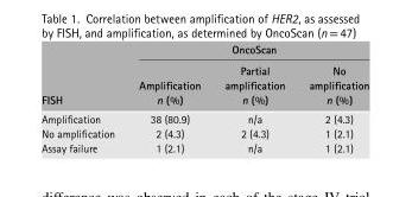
<table><thead><tr><td rowspan="3">FISH</td><td colspan="3">OncoScan</td></tr><tr><td rowspan="2">Amplification n (%)</td><td rowspan="2">Partial amplification n (%)</td><td rowspan="2">No amplification n (%)</td></tr><tr></tr></thead><tbody><tr><td>Amplification</td><td>38 (80.9)</td><td>n/a</td><td>2 (4.3)</td></tr><tr><td>No amplification</td><td>2 (4.3)</td><td>2 (4.3)</td><td>1 (2.1)</td></tr><tr><td>Assay failure</td><td>1 (2.1)</td><td>n/a</td><td>1 (2.1)</td></tr></tbody></table>